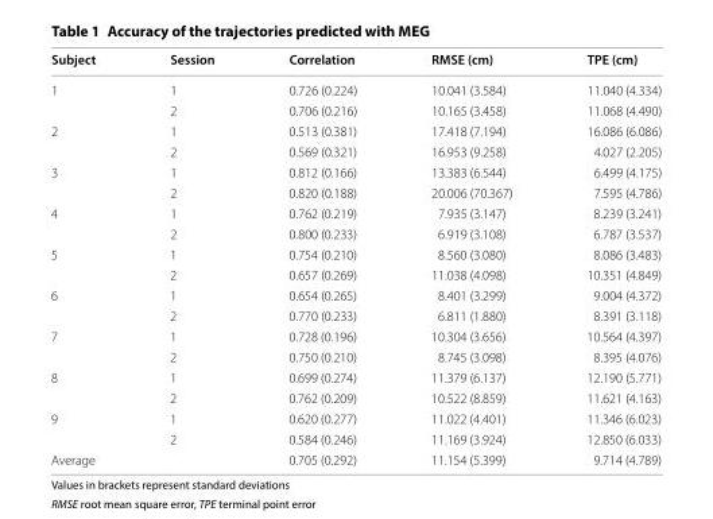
<table><thead><tr><td>Subject</td><td>Session</td><td>Correlation</td><td>RMSE (cm)</td><td>TPE (cm)</td></tr></thead><tbody><tr><td rowspan="2">1</td><td>1</td><td>0.726 (0.224)</td><td>10.041 (3.584)</td><td>11.040 (4.334)</td></tr><tr><td>2</td><td>0.706 (0.216)</td><td>10.165 (3.458)</td><td>11.068 (4.490)</td></tr><tr><td rowspan="2">2</td><td>1</td><td>0.513 (0.381)</td><td>17.418 (7.194)</td><td>16.086 (6.086)</td></tr><tr><td>2</td><td>0.569 (0.321)</td><td>16.953 (9.258)</td><td>4.027 (2.205)</td></tr><tr><td rowspan="2">3</td><td>1</td><td>0.812 (0.166)</td><td>13.383 (6.544)</td><td>6.499 (4.175)</td></tr><tr><td>2</td><td>0.820 (0.188)</td><td>20.006 (70.367)</td><td>7.595 (4.786)</td></tr><tr><td rowspan="2">4</td><td>1</td><td>0.762 (0.219)</td><td>7.935 (3.147)</td><td>8.239 (3.241)</td></tr><tr><td>2</td><td>0.800 (0.233)</td><td>6.919 (3.108)</td><td>6.787 (3.537)</td></tr><tr><td rowspan="2">5</td><td>1</td><td>0.754 (0.210)</td><td>8.560 (3.080)</td><td>8.086 (3.483)</td></tr><tr><td>2</td><td>0.657 (0.269)</td><td>11.038 (4.098)</td><td>10.351 (4.849)</td></tr><tr><td rowspan="2">6</td><td>1</td><td>0.654 (0.265)</td><td>8.401 (3.299)</td><td>9.004 (4.372)</td></tr><tr><td>2</td><td>0.770 (0.233)</td><td>6.811 (1.880)</td><td>8.391 (3.118)</td></tr><tr><td rowspan="2">7</td><td>1</td><td>0.728 (0.196)</td><td>10.304 (3.656)</td><td>10.564 (4.397)</td></tr><tr><td>2</td><td>0.750 (0.210)</td><td>8.745 (3.098)</td><td>8.395 (4.076)</td></tr><tr><td rowspan="2">8</td><td>1</td><td>0.699 (0.274)</td><td>11.379 (6.137)</td><td>12.190 (5.771)</td></tr><tr><td>2</td><td>0.762 (0.209)</td><td>10.522 (8.859)</td><td>11.621 (4.163)</td></tr><tr><td rowspan="2">9</td><td>1</td><td>0.620 (0.277)</td><td>11.022 (4.401)</td><td>11.346 (6.023)</td></tr><tr><td>2</td><td>0.584 (0.246)</td><td>11.169 (3.924)</td><td>12.850 (6.033)</td></tr><tr><td>Average</td><td></td><td>0.705 (0.292)</td><td>11.154 (5.399)</td><td>9.714 (4.789)</td></tr></tbody></table>